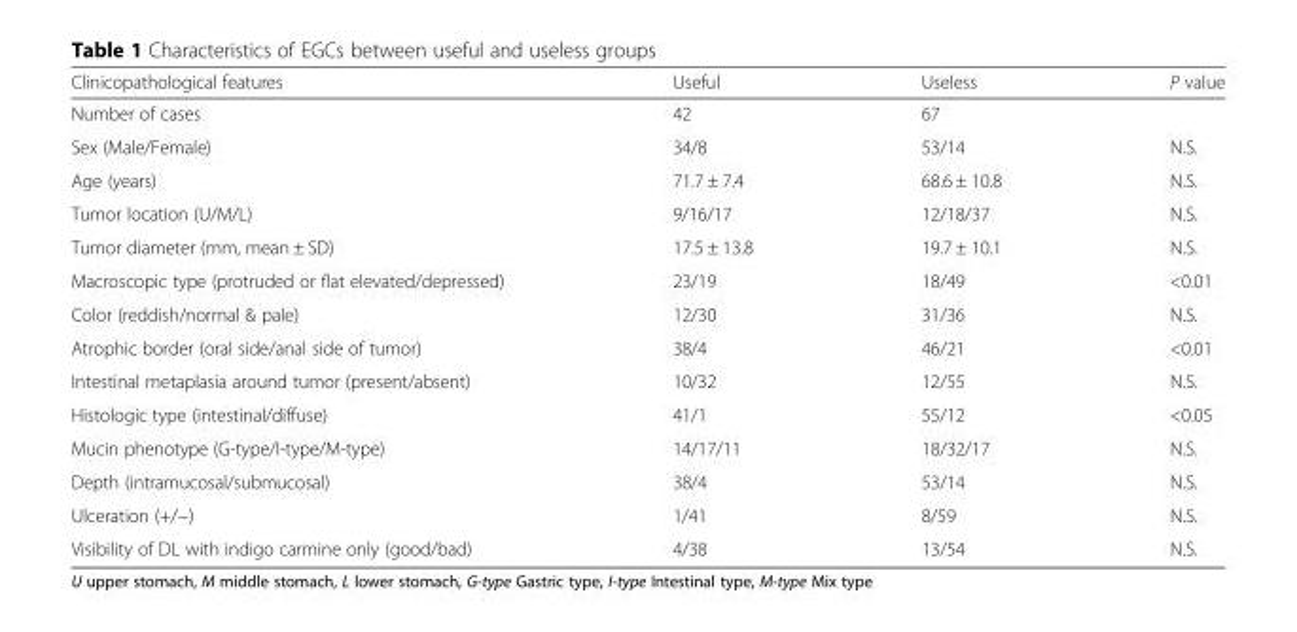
<table><thead><tr><td>Clinicopathological features</td><td>Useful</td><td>Useless</td><td>P value</td></tr></thead><tbody><tr><td>Number of cases</td><td>42</td><td>67</td><td></td></tr><tr><td>Sex (Male/Female)</td><td>34/8</td><td>53/14</td><td>N.S.</td></tr><tr><td>Age (years)</td><td>71.7 ± 7.4</td><td>68.6 ± 10.8</td><td>N.S.</td></tr><tr><td>Tumor location (U/M/L)</td><td>9/16/17</td><td>12/18/37</td><td>N.S.</td></tr><tr><td>Tumor diameter (mm, mean ± SD)</td><td>17.5 ± 13.8</td><td>19.7 ± 10.1</td><td>N.S.</td></tr><tr><td>Macroscopic type (protruded or flat elevated/depressed)</td><td>23/19</td><td>18/49</td><td>&lt;0.01</td></tr><tr><td>Color (reddish/normal &amp; pale)</td><td>12/30</td><td>31/36</td><td>N.S.</td></tr><tr><td>Atrophic border (oral side/anal side of tumor)</td><td>38/4</td><td>46/21</td><td>&lt;0.01</td></tr><tr><td>Intestinal metaplasia around tumor (present/absent)</td><td>10/32</td><td>12/55</td><td>N.S.</td></tr><tr><td>Histologic type (intestinal/diffuse)</td><td>41/1</td><td>55/12</td><td>&lt;0.05</td></tr><tr><td>Mucin phenotype (G-type/I-type/M-type)</td><td>14/17/11</td><td>18/32/17</td><td>N.S.</td></tr><tr><td>Depth (intramucosal/submucosal)</td><td>38/4</td><td>53/14</td><td>N.S.</td></tr><tr><td>Ulceration (+/−)</td><td>1/41</td><td>8/59</td><td>N.S.</td></tr><tr><td>Visibility of DL with indigo carmine only (good/bad)</td><td>4/38</td><td>13/54</td><td>N.S.</td></tr></tbody></table>